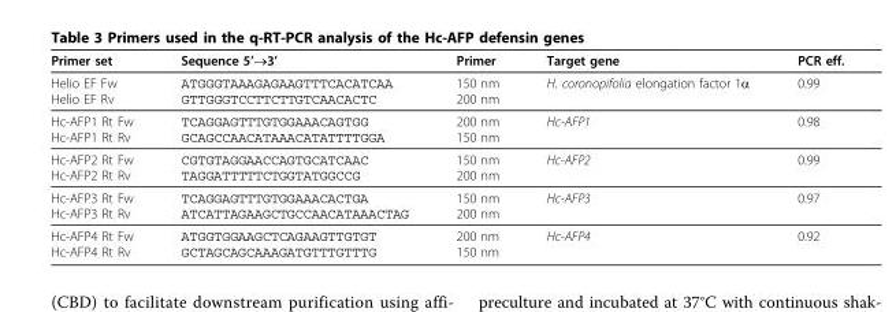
<table><thead><tr><td>Primer set</td><td>Sequence 5’→3’</td><td>Primer</td><td>Target gene</td><td>PCR eff.</td></tr></thead><tbody><tr><td>Helio EF Fw Helio EF Rv</td><td>ATGGGTAAAGAGAAGTTTCACATCAA GTTGGGTCCTTCTTGTCAACACTC</td><td>150 nm 200 nm</td><td>H. coronopifolia elongation factor 1α</td><td>0.99</td></tr><tr><td>Hc-AFP1 Rt Fw Hc-AFP1 Rt Rv</td><td>TCAGGAGTTTGTGGAAACAGTGG GCAGCCAACATAAACATATTTTGGA</td><td>200 nm 150 nm</td><td>Hc-AFP1</td><td>0.98</td></tr><tr><td>Hc-AFP2 Rt Fw Hc-AFP2 Rt Rv</td><td>CGTGTAGGAACCAGTGCATCAAC TAGGATTTTTCTGGTATGGCCG</td><td>150 nm 200 nm</td><td>Hc-AFP2</td><td>0.99</td></tr><tr><td>Hc-AFP3 Rt Fw Hc-AFP3 Rt Rv</td><td>TCAGGAGTTTGTGGAAACACTGA ATCATTAGAAGCTGCCAACATAAACTAG</td><td>150 nm 200 nm</td><td>Hc-AFP3</td><td>0.97</td></tr><tr><td>Hc-AFP4 Rt Fw Hc-AFP4 Rt Rv</td><td>ATGGTGGAAGCTCAGAAGTTGTGT GCTAGCAGCAAAGATGTTTGTTTG</td><td>200 nm 150 nm</td><td>Hc-AFP4</td><td>0.92</td></tr></tbody></table>